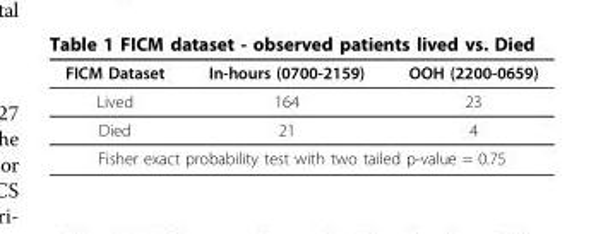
<table><thead><tr><td>FICM Dataset</td><td>In-hours (0700-2159)</td><td>OOH (2200-0659)</td></tr></thead><tbody><tr><td>Lived</td><td>164</td><td>23</td></tr><tr><td>Died</td><td>21</td><td>4</td></tr><tr><td colspan="3">Fisher exact probability test with two tailed p-value = 0.75</td></tr></tbody></table>